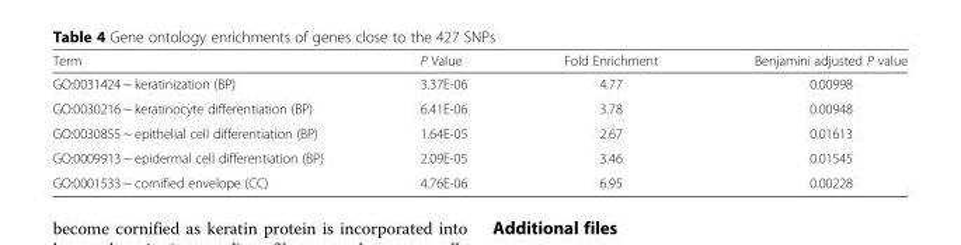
<table><thead><tr><td>Term</td><td>P Value</td><td>Fold Enrichment</td><td>Benjamini adjusted P value</td></tr></thead><tbody><tr><td>GO:0031424 ~ keratinization (BP)</td><td>3.37E-06</td><td>4.77</td><td>0.00998</td></tr><tr><td>GO:0030216 ~ keratinocyte differentiation (BP)</td><td>6.41E-06</td><td>3.78</td><td>0.00948</td></tr><tr><td>GO:0030855 ~ epithelial cell differentiation (BP)</td><td>1.64E-05</td><td>2.67</td><td>0.01613</td></tr><tr><td>GO:0009913 ~ epidermal cell differentiation (BP)</td><td>2.09E-05</td><td>3.46</td><td>0.01545</td></tr><tr><td>GO:0001533 ~ cornified envelope (CC)</td><td>4.76E-06</td><td>6.95</td><td>0.00228</td></tr></tbody></table>